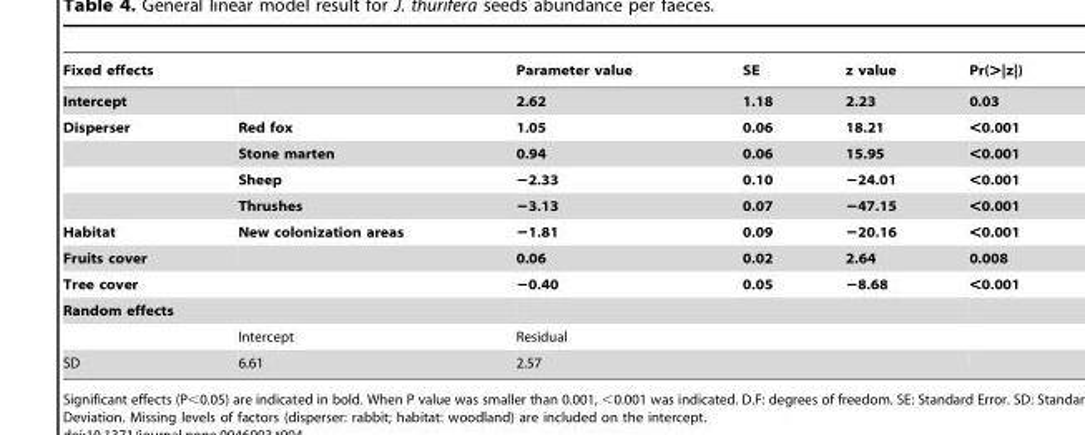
<table><thead><tr><td>Fixed effects</td><td></td><td>Parameter value</td><td>SE</td><td>z value</td><td>Pr(&gt;|z|)</td></tr></thead><tbody><tr><td>Intercept</td><td></td><td>2.62</td><td>1.18</td><td>2.23</td><td>0.03</td></tr><tr><td rowspan="4">Disperser</td><td>Red fox</td><td>1.05</td><td>0.06</td><td>18.21</td><td>&lt;0.001</td></tr><tr><td>Stone marten</td><td>0.94</td><td>0.06</td><td>15.95</td><td>&lt;0.001</td></tr><tr><td>Sheep</td><td>−2.33</td><td>0.10</td><td>−24.01</td><td>&lt;0.001</td></tr><tr><td>Thrushes</td><td>−3.13</td><td>0.07</td><td>−47.15</td><td>&lt;0.001</td></tr><tr><td>Habitat</td><td>New colonization areas</td><td>−1.81</td><td>0.09</td><td>−20.16</td><td>&lt;0.001</td></tr><tr><td>Fruits cover</td><td></td><td>0.06</td><td>0.02</td><td>2.64</td><td>0.008</td></tr><tr><td>Tree cover</td><td></td><td>−0.40</td><td>0.05</td><td>−8.68</td><td>&lt;0.001</td></tr><tr><td colspan="6">Random effects</td></tr><tr><td></td><td>Intercept</td><td>Residual</td><td></td><td></td><td></td></tr><tr><td>SD</td><td>6.61</td><td>2.57</td><td></td><td></td><td></td></tr></tbody></table>